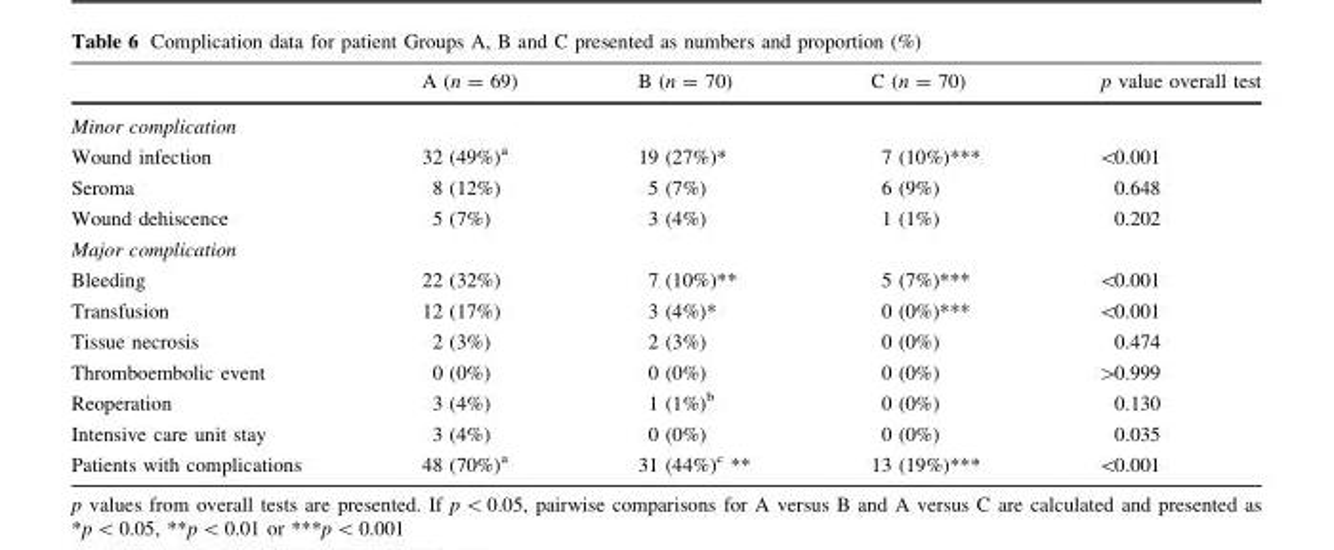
<table><thead><tr><td></td><td>A (n = 69)</td><td>B (n = 70)</td><td>C (n = 70)</td><td>p value overall test</td></tr></thead><tbody><tr><td colspan="5">Minor complication</td></tr><tr><td>Wound infection</td><td>32 (49%)<sup>a</sup></td><td>19 (27%)*</td><td>7 (10%)***</td><td>&lt;0.001</td></tr><tr><td>Seroma</td><td>8 (12%)</td><td>5 (7%)</td><td>6 (9%)</td><td>0.648</td></tr><tr><td>Wound dehiscence</td><td>5 (7%)</td><td>3 (4%)</td><td>1 (1%)</td><td>0.202</td></tr><tr><td colspan="5">Major complication</td></tr><tr><td>Bleeding</td><td>22 (32%)</td><td>7 (10%)**</td><td>5 (7%)***</td><td>&lt;0.001</td></tr><tr><td>Transfusion</td><td>12 (17%)</td><td>3 (4%)*</td><td>0 (0%)***</td><td>&lt;0.001</td></tr><tr><td>Tissue necrosis</td><td>2 (3%)</td><td>2 (3%)</td><td>0 (0%)</td><td>0.474</td></tr><tr><td>Thromboembolic event</td><td>0 (0%)</td><td>0 (0%)</td><td>0 (0%)</td><td>&gt;0.999</td></tr><tr><td>Reoperation</td><td>3 (4%)</td><td>1 (1%)<sup>b</sup></td><td>0 (0%)</td><td>0.130</td></tr><tr><td>Intensive care unit stay</td><td>3 (4%)</td><td>0 (0%)</td><td>0 (0%)</td><td>0.035</td></tr><tr><td>Patients with complications</td><td>48 (70%)<sup>a</sup></td><td>31 (44%)<sup>c</sup> **</td><td>13 (19%)***</td><td>&lt;0.001</td></tr></tbody></table>